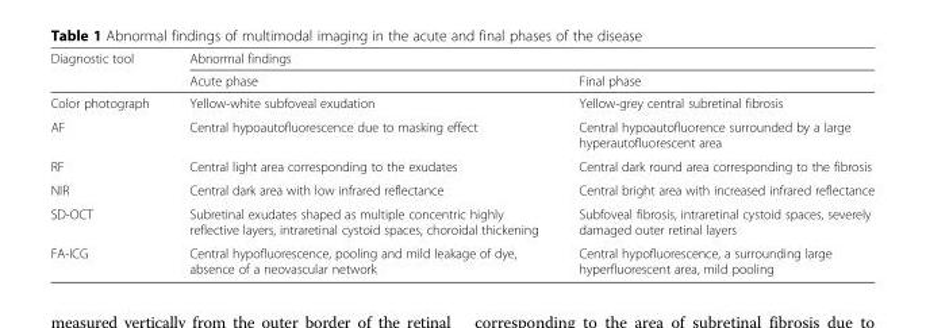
<table><thead><tr><td rowspan="2">Diagnostic tool</td><td colspan="2">Abnormal findings</td></tr><tr><td>Acute phase</td><td>Final phase</td></tr></thead><tbody><tr><td>Color photograph</td><td>Yellow-white subfoveal exudation</td><td>Yellow-grey central subretinal fibrosis</td></tr><tr><td>AF</td><td>Central hypoautofluorescence due to masking effect</td><td>Central hypoautofluorence surrounded by a large hyperautofluorescent area</td></tr><tr><td>RF</td><td>Central light area corresponding to the exudates</td><td>Central dark round area corresponding to the fibrosis</td></tr><tr><td>NIR</td><td>Central dark area with low infrared reflectance</td><td>Central bright area with increased infrared reflectance</td></tr><tr><td>SD-OCT</td><td>Subretinal exudates shaped as multiple concentric highly reflective layers, intraretinal cystoid spaces, choroidal thickening</td><td>Subfoveal fibrosis, intraretinal cystoid spaces, severely damaged outer retinal layers</td></tr><tr><td>FA-ICG</td><td>Central hypofluorescence, pooling and mild leakage of dye, absence of a neovascular network</td><td>Central hypofluorescence, a surrounding large hyperfluorescent area, mild pooling</td></tr></tbody></table>